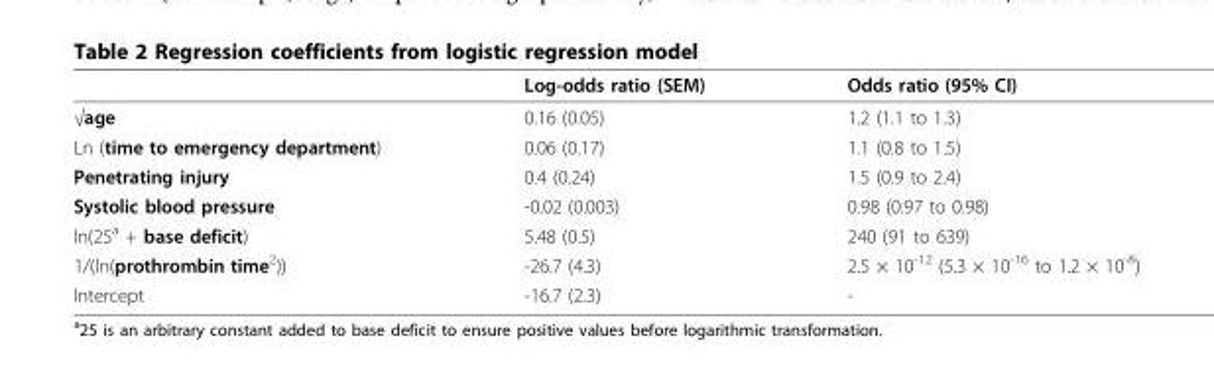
<table><thead><tr><td></td><td>Log-odds ratio (SEM)</td><td>Odds ratio (95% CI)</td></tr></thead><tbody><tr><td>√age</td><td>0.16 (0.05)</td><td>1.2 (1.1 to 1.3)</td></tr><tr><td>Ln (time to emergency department)</td><td>0.06 (0.17)</td><td>1.1 (0.8 to 1.5)</td></tr><tr><td>Penetrating injury</td><td>0.4 (0.24)</td><td>1.5 (0.9 to 2.4)</td></tr><tr><td>Systolic blood pressure</td><td>-0.02 (0.003)</td><td>0.98 (0.97 to 0.98)</td></tr><tr><td>ln(25<sup>a</sup> + base deficit)</td><td>5.48 (0.5)</td><td>240 (91 to 639)</td></tr><tr><td>1/(ln(prothrombin time<sup>2</sup>))</td><td>-26.7 (4.3)</td><td>2.5 × 10<sup>-12</sup> (5.3 × 10<sup>-16</sup> to 1.2 × 10<sup>-8</sup>)</td></tr><tr><td>Intercept</td><td>-16.7 (2.3)</td><td>-</td></tr></tbody></table>